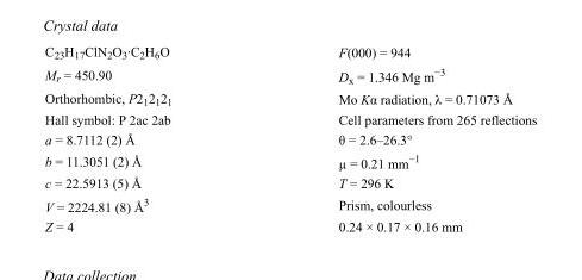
<table><tbody><tr><td>C<sub>23</sub>H<sub>17</sub>ClN<sub>2</sub>O<sub>3</sub>·C<sub>2</sub>H<sub>6</sub>O</td><td>F(000) = 944</td></tr><tr><td>M<sub>r</sub> = 450.90</td><td>D<sub>x</sub> = 1.346 Mg m<sup>−3</sup></td></tr><tr><td>Orthorhombic, P2<sub>1</sub>2<sub>1</sub>2<sub>1</sub></td><td>Mo Kα radiation, λ = 0.71073 Å</td></tr><tr><td>Hall symbol: P 2ac 2ab</td><td>Cell parameters from 265 reflections</td></tr><tr><td>a = 8.7112 (2) Å</td><td>θ = 2.6–26.3°</td></tr><tr><td>b = 11.3051 (2) Å</td><td>µ = 0.21 mm<sup>−1</sup></td></tr><tr><td>c = 22.5913 (5) Å</td><td>T = 296 K</td></tr><tr><td>V = 2224.81 (8) Å<sup>3</sup></td><td>Prism, colourless</td></tr><tr><td>Z = 4</td><td>0.24 × 0.17 × 0.16 mm</td></tr></tbody></table>